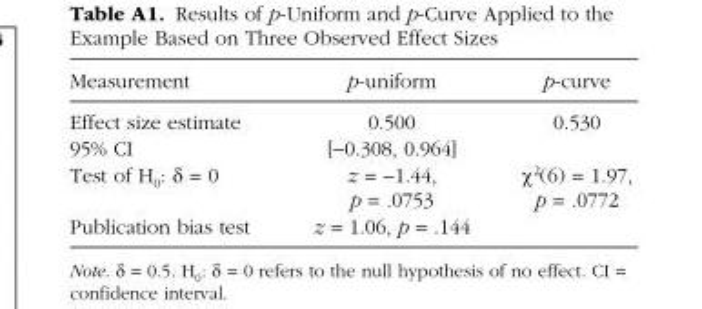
<table><thead><tr><td>Measurement</td><td>p-uniform</td><td>p-curve</td></tr></thead><tbody><tr><td>Effect size estimate</td><td>0.500</td><td>0.530</td></tr><tr><td>95% CI</td><td>[−0.308, 0.964]</td><td></td></tr><tr><td>Test of H<sub>0</sub>: δ = 0</td><td>z = −1.44, p = .0753</td><td>χ<sup>2</sup>(6) = 1.97, p = .0772</td></tr><tr><td>Publication bias test</td><td>z = 1.06, p = .144</td><td></td></tr></tbody></table>